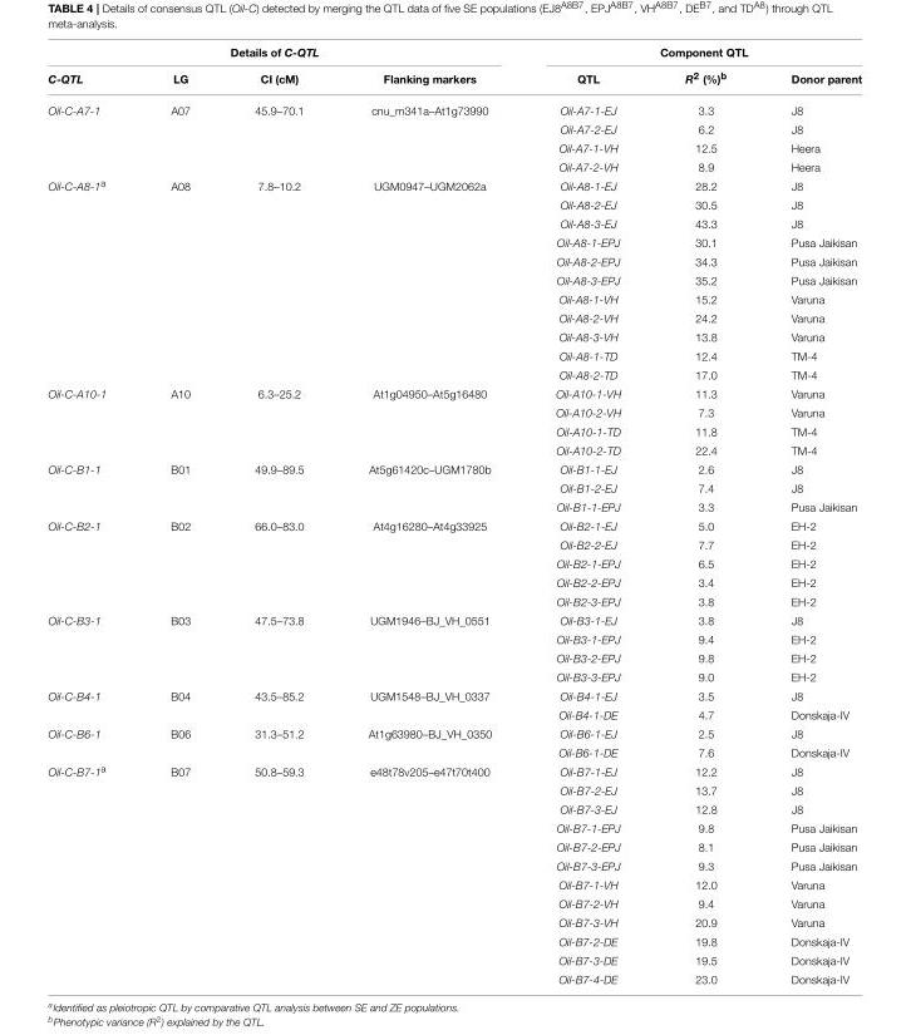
<table><thead><tr><td colspan="4">Details of C-QTL</td><td colspan="3">Component QTL</td></tr><tr><td>C-QTL</td><td>LG</td><td>CI (cM)</td><td>Flanking markers</td><td>QTL</td><td>R<sup>2</sup> (%)<sup>b</sup></td><td>Donor parent</td></tr></thead><tbody><tr><td rowspan="4">Oil-C-A7-1</td><td>A07</td><td>45.9–70.1</td><td>cnu_m341a–At1g73990</td><td>Oil-A7-1-EJ</td><td>3.3</td><td>J8</td></tr><tr><td></td><td></td><td></td><td>Oil-A7-2-EJ</td><td>6.2</td><td>J8</td></tr><tr><td></td><td></td><td></td><td>Oil-A7-1-VH</td><td>12.5</td><td>Heera</td></tr><tr><td></td><td></td><td></td><td>Oil-A7-2-VH</td><td>8.9</td><td>Heera</td></tr><tr><td rowspan="11">Oil-C-A8-1<sup>a</sup></td><td>A08</td><td>7.8–10.2</td><td>UGM0947–UGM2062a</td><td>Oil-A8-1-EJ</td><td>28.2</td><td>J8</td></tr><tr><td></td><td></td><td></td><td>Oil-A8-2-EJ</td><td>30.5</td><td>J8</td></tr><tr><td></td><td></td><td></td><td>Oil-A8-3-EJ</td><td>43.3</td><td>J8</td></tr><tr><td></td><td></td><td></td><td>Oil-A8-1-EPJ</td><td>30.1</td><td>Pusa Jaikisan</td></tr><tr><td></td><td></td><td></td><td>Oil-A8-2-EPJ</td><td>34.3</td><td>Pusa Jaikisan</td></tr><tr><td></td><td></td><td></td><td>Oil-A8-3-EPJ</td><td>35.2</td><td>Pusa Jaikisan</td></tr><tr><td></td><td></td><td></td><td>Oil-A8-1-VH</td><td>15.2</td><td>Varuna</td></tr><tr><td></td><td></td><td></td><td>Oil-A8-2-VH</td><td>24.2</td><td>Varuna</td></tr><tr><td></td><td></td><td></td><td>Oil-A8-3-VH</td><td>13.8</td><td>Varuna</td></tr><tr><td></td><td></td><td></td><td>Oil-A8-1-TD</td><td>12.4</td><td>TM-4</td></tr><tr><td></td><td></td><td></td><td>Oil-A8-2-TD</td><td>17.0</td><td>TM-4</td></tr><tr><td rowspan="4">Oil-C-A10-1</td><td>A10</td><td>6.3–25.2</td><td>At1g04950–At5g16480</td><td>Oil-A10-1-VH</td><td>11.3</td><td>Varuna</td></tr><tr><td></td><td></td><td></td><td>Oil-A10-2-VH</td><td>7.3</td><td>Varuna</td></tr><tr><td></td><td></td><td></td><td>Oil-A10-1-TD</td><td>11.8</td><td>TM-4</td></tr><tr><td></td><td></td><td></td><td>Oil-A10-2-TD</td><td>22.4</td><td>TM-4</td></tr><tr><td rowspan="3">Oil-C-B1-1</td><td>B01</td><td>49.9–89.5</td><td>At5g61420c–UGM1780b</td><td>Oil-B1-1-EJ</td><td>2.6</td><td>J8</td></tr><tr><td></td><td></td><td></td><td>Oil-B1-2-EJ</td><td>7.4</td><td>J8</td></tr><tr><td></td><td></td><td></td><td>Oil-B1-1-EPJ</td><td>3.3</td><td>Pusa Jaikisan</td></tr><tr><td rowspan="5">Oil-C-B2-1</td><td>B02</td><td>66.0–83.0</td><td>At4g16280–At4g33925</td><td>Oil-B2-1-EJ</td><td>5.0</td><td>EH-2</td></tr><tr><td></td><td></td><td></td><td>Oil-B2-2-EJ</td><td>7.7</td><td>EH-2</td></tr><tr><td></td><td></td><td></td><td>Oil-B2-1-EPJ</td><td>6.5</td><td>EH-2</td></tr><tr><td></td><td></td><td></td><td>Oil-B2-2-EPJ</td><td>3.4</td><td>EH-2</td></tr><tr><td></td><td></td><td></td><td>Oil-B2-3-EPJ</td><td>3.8</td><td>EH-2</td></tr><tr><td rowspan="4">Oil-C-B3-1</td><td>B03</td><td>47.5–73.8</td><td>UGM1946–BJ_VH_0551</td><td>Oil-B3-1-EJ</td><td>3.8</td><td>J8</td></tr><tr><td></td><td></td><td></td><td>Oil-B3-1-EPJ</td><td>9.4</td><td>EH-2</td></tr><tr><td></td><td></td><td></td><td>Oil-B3-2-EPJ</td><td>9.8</td><td>EH-2</td></tr><tr><td></td><td></td><td></td><td>Oil-B3-3-EPJ</td><td>9.0</td><td>EH-2</td></tr><tr><td rowspan="2">Oil-C-B4-1</td><td>B04</td><td>43.5–85.2</td><td>UGM1548–BJ_VH_0337</td><td>Oil-B4-1-EJ</td><td>3.5</td><td>J8</td></tr><tr><td></td><td></td><td></td><td>Oil-B4-1-DE</td><td>4.7</td><td>Donskaja-IV</td></tr><tr><td rowspan="2">Oil-C-B6-1</td><td>B06</td><td>31.3–51.2</td><td>At1g63980–BJ_VH_0350</td><td>Oil-B6-1-EJ</td><td>2.5</td><td>J8</td></tr><tr><td></td><td></td><td></td><td>Oil-B6-1-DE</td><td>7.6</td><td>Donskaja-IV</td></tr><tr><td rowspan="12">Oil-C-B7-1<sup>a</sup></td><td>B07</td><td>50.8–59.3</td><td>e48t78v205–e47t70t400</td><td>Oil-B7-1-EJ</td><td>12.2</td><td>J8</td></tr><tr><td></td><td></td><td></td><td>Oil-B7-2-EJ</td><td>13.7</td><td>J8</td></tr><tr><td></td><td></td><td></td><td>Oil-B7-3-EJ</td><td>12.8</td><td>J8</td></tr><tr><td></td><td></td><td></td><td>Oil-B7-1-EPJ</td><td>9.8</td><td>Pusa Jaikisan</td></tr><tr><td></td><td></td><td></td><td>Oil-B7-2-EPJ</td><td>8.1</td><td>Pusa Jaikisan</td></tr><tr><td></td><td></td><td></td><td>Oil-B7-3-EPJ</td><td>9.3</td><td>Pusa Jaikisan</td></tr><tr><td></td><td></td><td></td><td>Oil-B7-1-VH</td><td>12.0</td><td>Varuna</td></tr><tr><td></td><td></td><td></td><td>Oil-B7-2-VH</td><td>9.4</td><td>Varuna</td></tr><tr><td></td><td></td><td></td><td>Oil-B7-3-VH</td><td>20.9</td><td>Varuna</td></tr><tr><td></td><td></td><td></td><td>Oil-B7-2-DE</td><td>19.8</td><td>Donskaja-IV</td></tr><tr><td></td><td></td><td></td><td>Oil-B7-3-DE</td><td>19.5</td><td>Donskaja-IV</td></tr><tr><td></td><td></td><td></td><td>Oil-B7-4-DE</td><td>23.0</td><td>Donskaja-IV</td></tr></tbody></table>